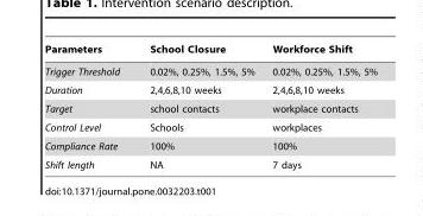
<table><thead><tr><td>Parameters</td><td>School Closure</td><td>Workforce Shift</td></tr></thead><tbody><tr><td>Trigger Threshold</td><td>0.02%, 0.25%, 1.5%, 5%</td><td>0.02%, 0.25%, 1.5%, 5%</td></tr><tr><td>Duration</td><td>2,4,6,8,10 weeks</td><td>2,4,6,8,10 weeks</td></tr><tr><td>Target</td><td>school contacts</td><td>workplace contacts</td></tr><tr><td>Control Level</td><td>Schools</td><td>workplaces</td></tr><tr><td>Compliance Rate</td><td>100%</td><td>100%</td></tr><tr><td>Shift length</td><td>NA</td><td>7 days</td></tr></tbody></table>